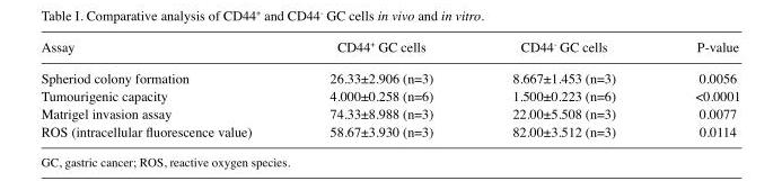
<table><thead><tr><td>Assay</td><td>CD44<sup>+</sup> GC cells</td><td>CD44<sup>-</sup> GC cells</td><td>P-value</td></tr></thead><tbody><tr><td>Spheriod colony formation</td><td>26.33±2.906 (n=3)</td><td>8.667±1.453 (n=3)</td><td>0.0056</td></tr><tr><td>Tumourigenic capacity</td><td>4.000±0.258 (n=6)</td><td>1.500±0.223 (n=6)</td><td>&lt;0.0001</td></tr><tr><td>Matrigel invasion assay</td><td>74.33±8.988 (n=3)</td><td>22.00±5.508 (n=3)</td><td>0.0077</td></tr><tr><td>ROS (intracellular fluorescence value)</td><td>58.67±3.930 (n=3)</td><td>82.00±3.512 (n=3)</td><td>0.0114</td></tr></tbody></table>